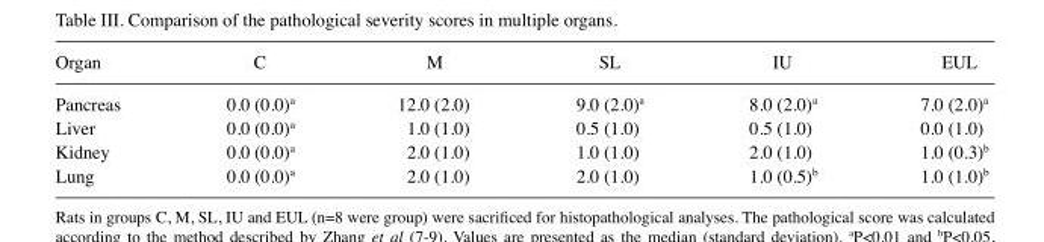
<table><thead><tr><td>Organ</td><td>C</td><td>M</td><td>SL</td><td>IU</td><td>EUL</td></tr></thead><tbody><tr><td>Pancreas</td><td>0.0 (0.0)<sup>a</sup></td><td>12.0 (2.0)</td><td>9.0 (2.0)<sup>a</sup></td><td>8.0 (2.0)<sup>a</sup></td><td>7.0 (2.0)<sup>a</sup></td></tr><tr><td>Liver</td><td>0.0 (0.0)<sup>a</sup></td><td>1.0 (1.0)</td><td>0.5 (1.0)</td><td>0.5 (1.0)</td><td>0.0 (1.0)</td></tr><tr><td>Kidney</td><td>0.0 (0.0)<sup>a</sup></td><td>2.0 (1.0)</td><td>1.0 (1.0)</td><td>2.0 (1.0)</td><td>1.0 (0.3)<sup>b</sup></td></tr><tr><td>Lung</td><td>0.0 (0.0)<sup>a</sup></td><td>2.0 (1.0)</td><td>2.0 (1.0)</td><td>1.0 (0.5)<sup>b</sup></td><td>1.0 (1.0)<sup>b</sup></td></tr></tbody></table>